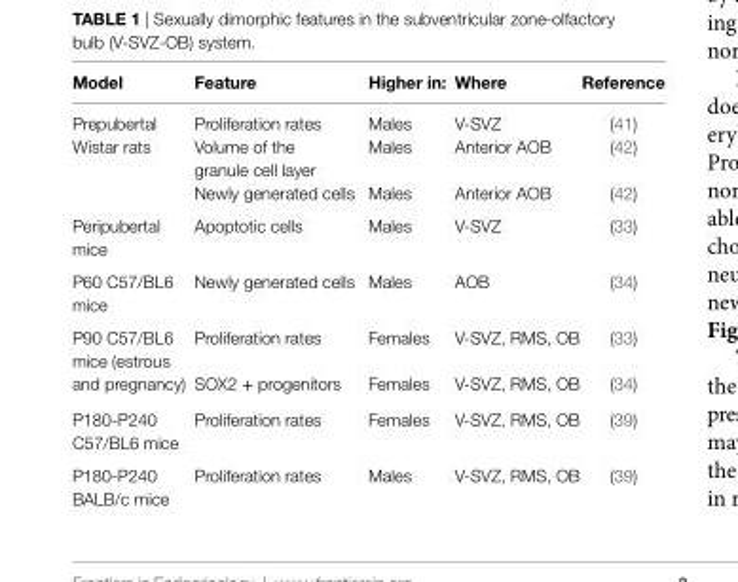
<table><thead><tr><td>Model</td><td>Feature</td><td>Higher in:</td><td>where</td><td>Reference</td></tr></thead><tbody><tr><td>Prepubertal</td><td>Proliferation rates</td><td>Males</td><td>V-SVZ</td><td>(41)</td></tr><tr><td rowspan="2">Wistar rats</td><td>Volume of the granule cell layer</td><td>Males</td><td>Anterior AOB</td><td>(42)</td></tr><tr><td>Newly generated cells</td><td>Males</td><td>Anterior AOB</td><td>(42)</td></tr><tr><td>Peripubertal mice</td><td>Apoptotic cells</td><td>Males</td><td>V-SVZ</td><td>(33)</td></tr><tr><td>P60 C57/BL6 mice</td><td>Newly generated cells</td><td>Males</td><td>AOB</td><td>(34)</td></tr><tr><td>P90 C57/BL6 mice (estrous and pregnancy)</td><td>Proliferation rates SOX2 + progenitors</td><td>Females Females</td><td>V-SVZ, RMS, OB V-SVZ, RMS, OB</td><td>(33) (34)</td></tr><tr><td>P180-P240 C57/BL6 mice</td><td>Proliferation rates</td><td>Females</td><td>V-SVZ, RMS, OB</td><td>(39)</td></tr><tr><td>P180-P240 BALB/c mice</td><td>Proliferation rates</td><td>Males</td><td>V-SVZ, RMS, OB</td><td>(39)</td></tr></tbody></table>